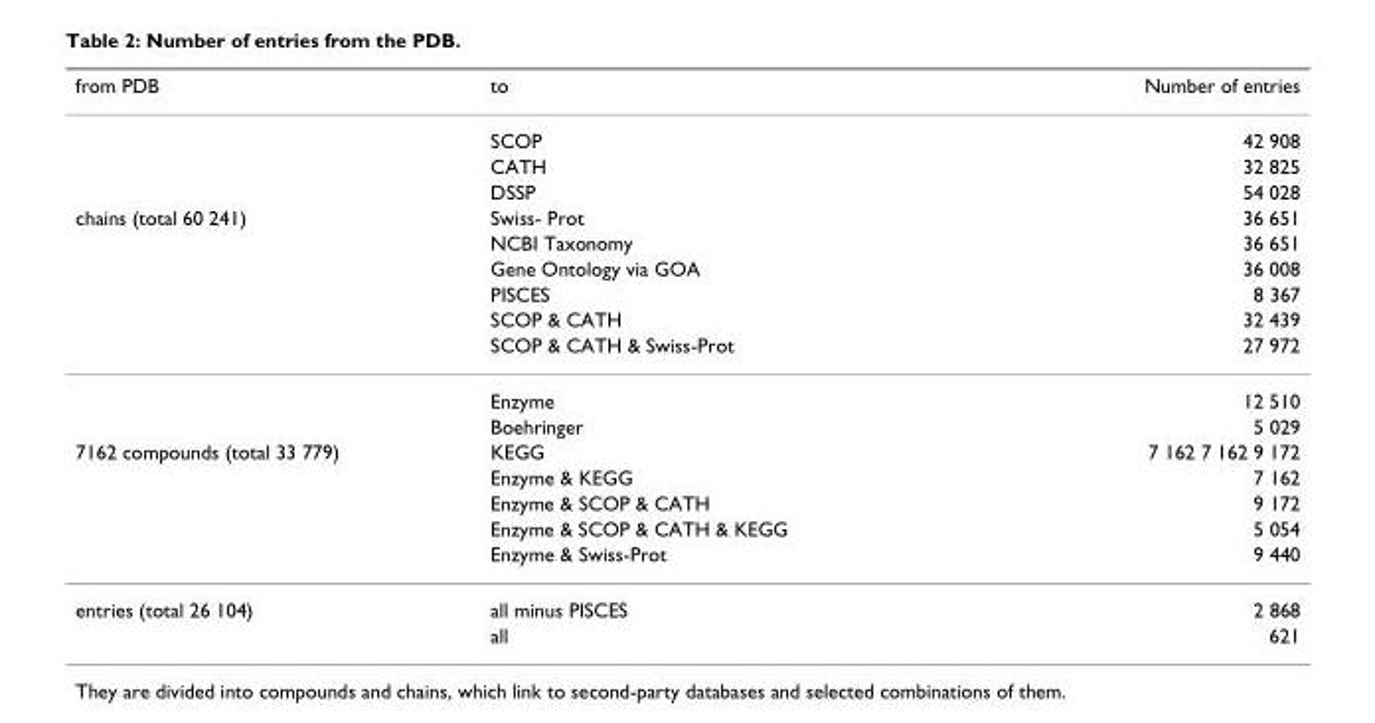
<table><thead><tr><td>from PDB</td><td>to</td><td>Number of entries</td></tr></thead><tbody><tr><td></td><td>SCOP</td><td>42 908</td></tr><tr><td></td><td>CATH</td><td>32 825</td></tr><tr><td></td><td>DSSP</td><td>54 028</td></tr><tr><td rowspan="8">chains (total 60 241)</td><td>Swiss- Prot</td><td>36 651</td></tr><tr><td>NCBI Taxonomy</td><td>36 651</td></tr><tr><td>Gene Ontology via GOA</td><td>36 008</td></tr><tr><td>PISCES</td><td>8 367</td></tr><tr><td>SCOP &amp; CATH</td><td>32 439</td></tr><tr><td>SCOP &amp; CATH &amp; Swiss-Prot</td><td>27 972</td></tr><tr><td>Enzyme</td><td>12 510</td></tr><tr><td>Boehringer</td><td>5 029</td></tr><tr><td rowspan="5">7162 compounds (total 33 779)</td><td>KEGG</td><td>7 162 7 162 9 172</td></tr><tr><td>Enzyme &amp; KEGG</td><td>7 162</td></tr><tr><td>Enzyme &amp; SCOP &amp; CATH</td><td>9 172</td></tr><tr><td>Enzyme &amp; SCOP &amp; CATH &amp; KEGG</td><td>5 054</td></tr><tr><td>Enzyme &amp; Swiss-Prot</td><td>9 440</td></tr><tr><td rowspan="2">entries (total 26 104)</td><td>all minus PISCES</td><td>2 868</td></tr><tr><td>all</td><td>621</td></tr></tbody></table>